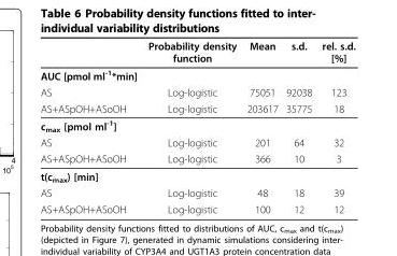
<table><thead><tr><td></td><td>Probability density function</td><td>Mean</td><td>s.d.</td><td>rel. s.d. [%]</td></tr></thead><tbody><tr><td colspan="5">AUC [pmol ml<sup>-1</sup>*min]</td></tr><tr><td>AS</td><td>Log-logistic</td><td>75051</td><td>92038</td><td>123</td></tr><tr><td>AS+ASpOH+ASoOH</td><td>Log-logistic</td><td>203617</td><td>35775</td><td>18</td></tr><tr><td colspan="5">c<sub>max</sub> [pmol ml<sup>-1</sup>]</td></tr><tr><td>AS</td><td>Log-logistic</td><td>201</td><td>64</td><td>32</td></tr><tr><td>AS+ASpOH+ASoOH</td><td>Log-logistic</td><td>366</td><td>10</td><td>3</td></tr><tr><td colspan="5">t(c<sub>max</sub>) [min]</td></tr><tr><td>AS</td><td>Log-logistic</td><td>48</td><td>18</td><td>39</td></tr><tr><td>AS+ASpOH+ASoOH</td><td>Log-logistic</td><td>100</td><td>12</td><td>12</td></tr></tbody></table>